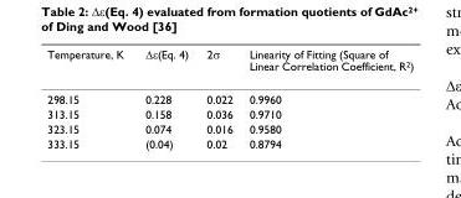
<table><thead><tr><td>Temperature, K</td><td>∆ε(Eq. 4)</td><td>2σ</td><td>Linearity of Fitting (Square of Linear Correlation Coefficient, R<sup>2</sup>)</td></tr></thead><tbody><tr><td>298.15</td><td>0.228</td><td>0.022</td><td>0.9960</td></tr><tr><td>313.15</td><td>0.158</td><td>0.036</td><td>0.9710</td></tr><tr><td>323.15</td><td>0.074</td><td>0.016</td><td>0.9580</td></tr><tr><td>333.15</td><td>(0.04)</td><td>0.02</td><td>0.8794</td></tr></tbody></table>